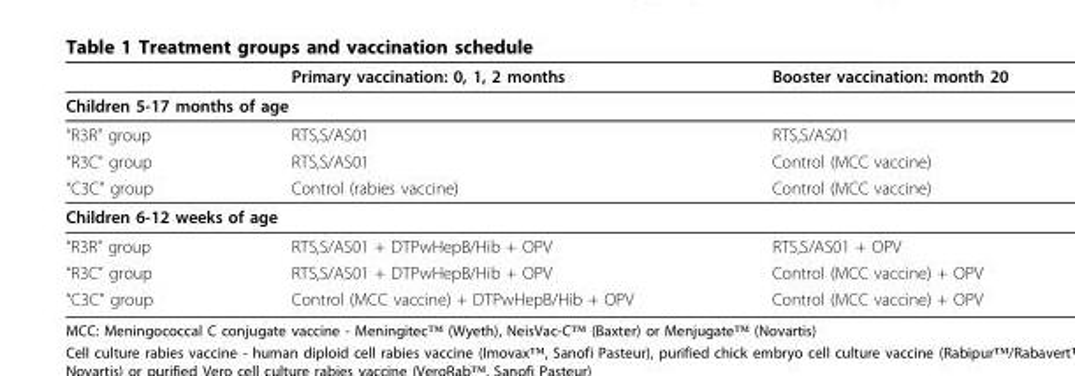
<table><thead><tr><td></td><td>Primary vaccination: 0, 1, 2 months</td><td>Booster vaccination: month 20</td></tr></thead><tbody><tr><td colspan="3">Children 5-17 months of age</td></tr><tr><td>“R3R” group</td><td>RTS,S/AS01</td><td>RTS,S/AS01</td></tr><tr><td>“R3C” group</td><td>RTS,S/AS01</td><td>Control (MCC vaccine)</td></tr><tr><td>“C3C” group</td><td>Control (rabies vaccine)</td><td>Control (MCC vaccine)</td></tr><tr><td colspan="3">Children 6-12 weeks of age</td></tr><tr><td>“R3R” group</td><td>RTS,S/AS01 + DTPwHepB/Hib + OPV</td><td>RTS,S/AS01 + OPV</td></tr><tr><td>“R3C” group</td><td>RTS,S/AS01 + DTPwHepB/Hib + OPV</td><td>Control (MCC vaccine) + OPV</td></tr><tr><td>“C3C” group</td><td>Control (MCC vaccine) + DTPwHepB/Hib + OPV</td><td>Control (MCC vaccine) + OPV</td></tr></tbody></table>